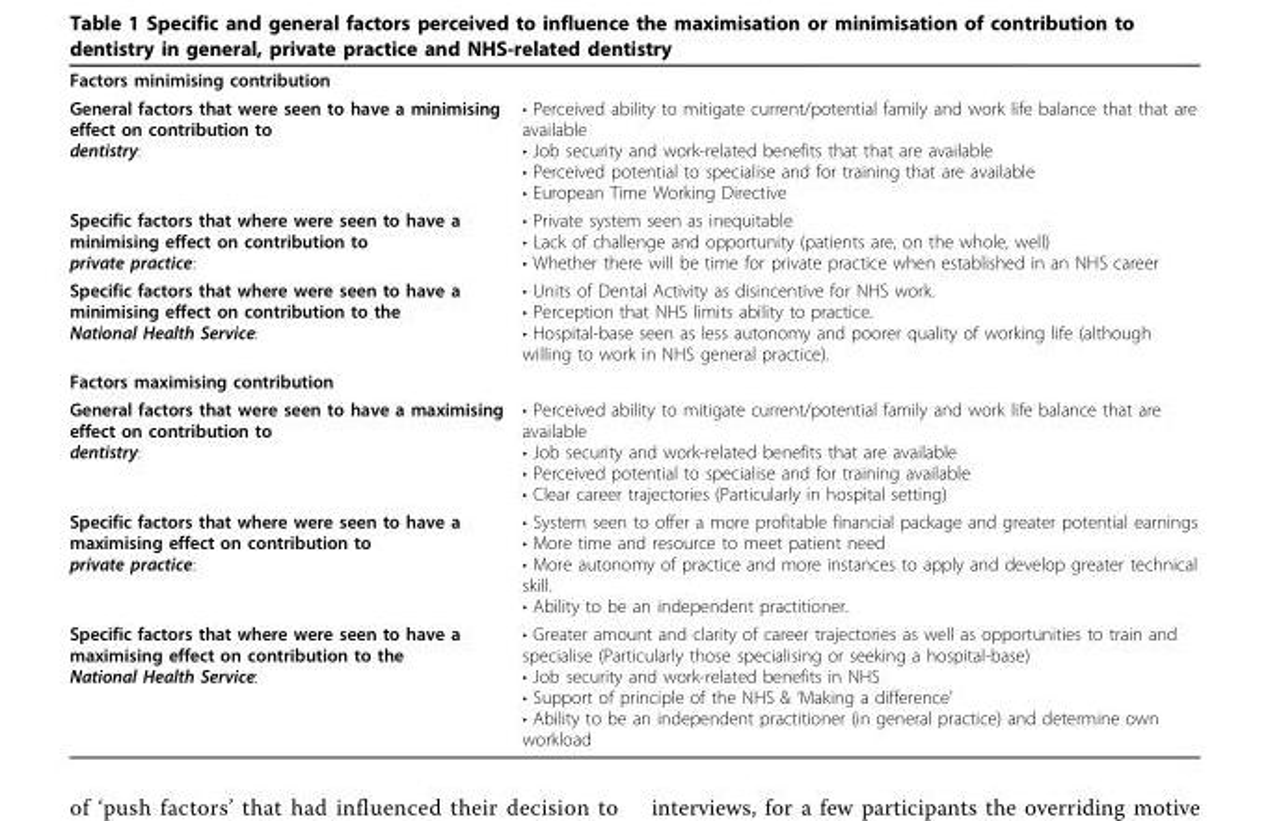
<table><tbody><tr><td colspan="2">Factors minimising contribution</td></tr><tr><td>General factors that were seen to have a minimising effect on contribution to dentistry:</td><td>• Perceived ability to mitigate current/potential family and work life balance that that are available • Job security and work-related benefits that that are available • Perceived potential to specialise and for training that are available • European Time Working Directive</td></tr><tr><td>Specific factors that where were seen to have a minimising effect on contribution to private practice:</td><td>• Private system seen as inequitable • Lack of challenge and opportunity (patients are, on the whole, well) • Whether there will be time for private practice when established in an NHS career</td></tr><tr><td>Specific factors that where were seen to have a minimising effect on contribution to the National Health Service:</td><td>• Units of Dental Activity as disincentive for NHS work. • Perception that NHS limits ability to practice. • Hospital-base seen as less autonomy and poorer quality of working life (although willing to work in NHS general practice).</td></tr><tr><td colspan="2">Factors maximising contribution</td></tr><tr><td>General factors that were seen to have a maximising effect on contribution to dentistry:</td><td>• Perceived ability to mitigate current/potential family and work life balance that are available • Job security and work-related benefits that are available • Perceived potential to specialise and for training available • Clear career trajectories (Particularly in hospital setting)</td></tr><tr><td>Specific factors that where were seen to have a maximising effect on contribution to private practice:</td><td>• System seen to offer a more profitable financial package and greater potential earnings • More time and resource to meet patient need • More autonomy of practice and more instances to apply and develop greater technical skill. • Ability to be an independent practitioner.</td></tr><tr><td>Specific factors that where were seen to have a maximising effect on contribution to the National Health Service:</td><td>• Greater amount and clarity of career trajectories as well as opportunities to train and specialise (Particularly those specialising or seeking a hospital-base) • Job security and work-related benefits in NHS • Support of principle of the NHS &amp; ‘Making a difference’ • Ability to be an independent practitioner (in general practice) and determine own workload</td></tr></tbody></table>